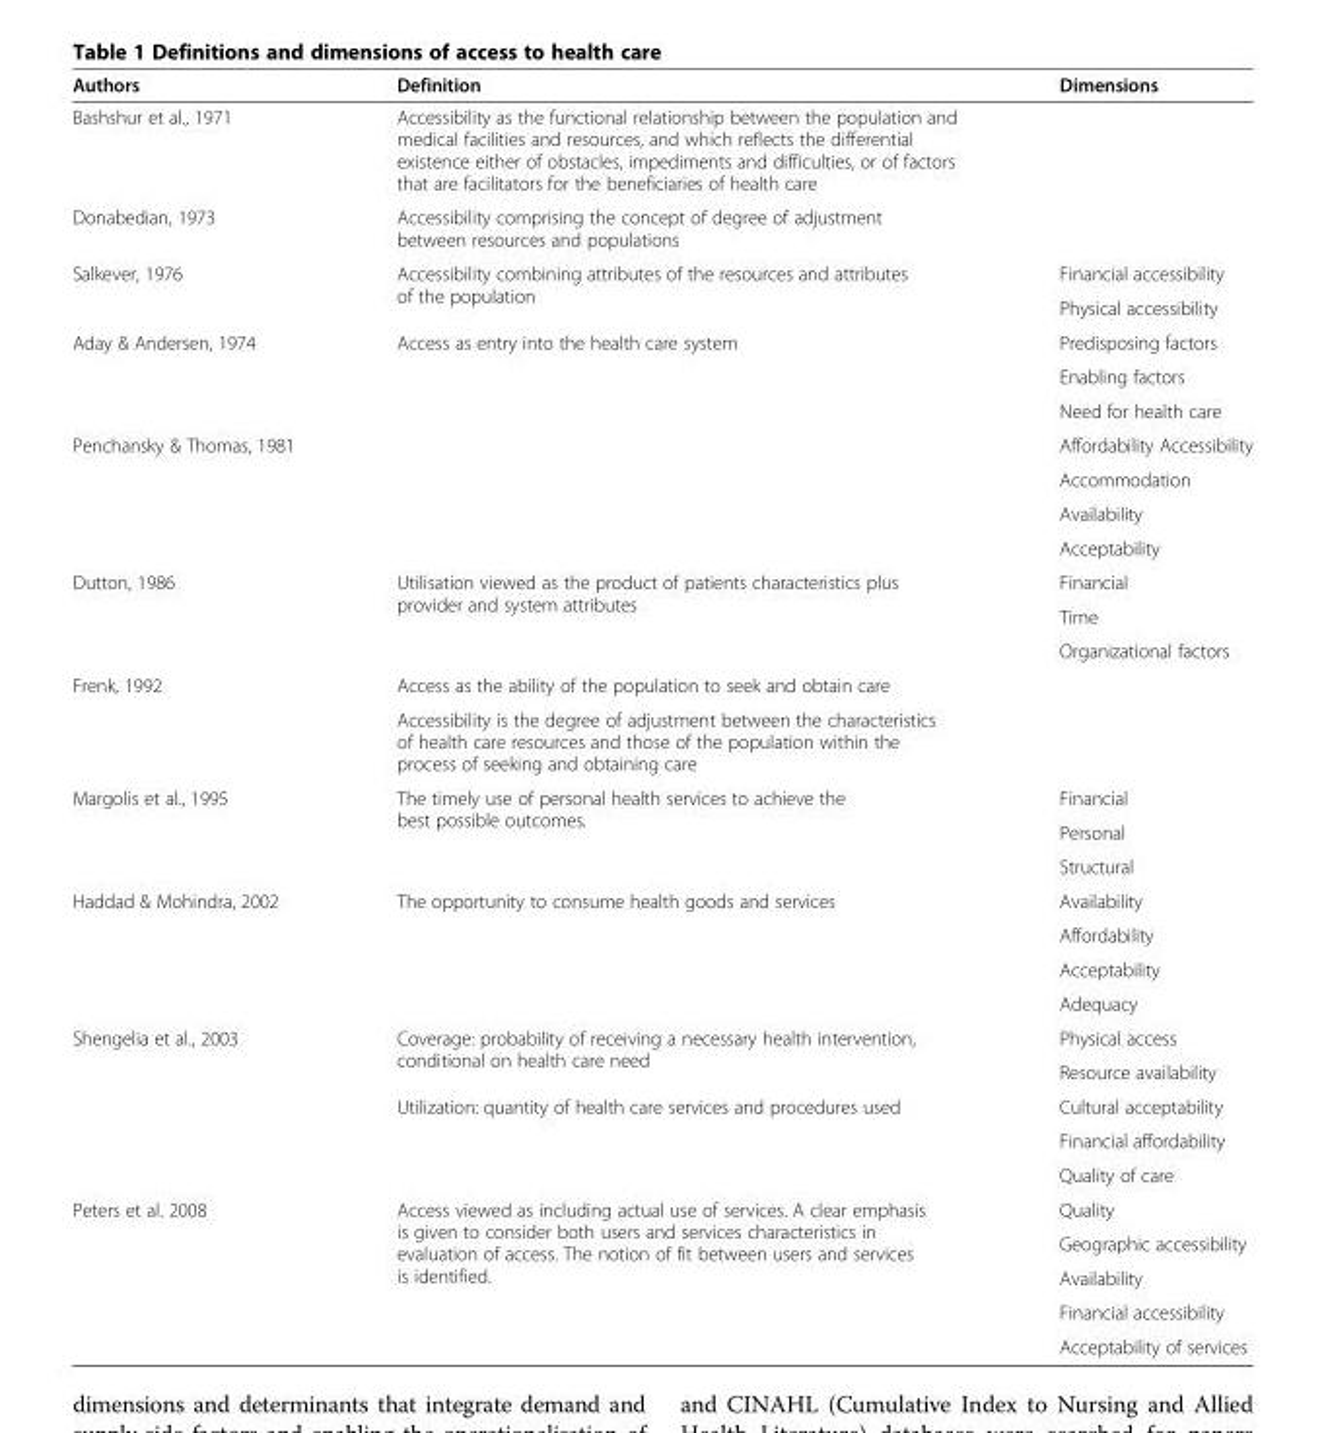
<table><thead><tr><td>Authors</td><td>Definition</td><td>Dimensions</td></tr></thead><tbody><tr><td>Bashshur et al., 1971</td><td>Accessibility as the functional relationship between the population and medical facilities and resources, and which reflects the differential existence either of obstacles, impediments and difficulties, or of factors that are facilitators for the beneficiaries of health care</td><td></td></tr><tr><td>Donabedian, 1973</td><td>Accessibility comprising the concept of degree of adjustment between resources and populations</td><td></td></tr><tr><td rowspan="2">Salkever, 1976</td><td rowspan="2">Accessibility combining attributes of the resources and attributes of the population</td><td>Financial accessibility</td></tr><tr><td>Physical accessibility</td></tr><tr><td rowspan="3">Aday &amp; Andersen, 1974</td><td rowspan="3">Access as entry into the health care system</td><td>Predisposing factors</td></tr><tr><td>Enabling factors</td></tr><tr><td>Need for health care</td></tr><tr><td rowspan="4">Penchansky &amp; Thomas, 1981</td><td rowspan="4"></td><td>Affordability Accessibility</td></tr><tr><td>Accommodation</td></tr><tr><td>Availability</td></tr><tr><td>Acceptability</td></tr><tr><td rowspan="3">Dutton, 1986</td><td rowspan="3">Utilisation viewed as the product of patients characteristics plus provider and system attributes</td><td>Financial</td></tr><tr><td>Time</td></tr><tr><td>Organizational factors</td></tr><tr><td rowspan="2">Frenk, 1992</td><td>Access as the ability of the population to seek and obtain care</td><td rowspan="2"></td></tr><tr><td>Accessibility is the degree of adjustment between the characteristics of health care resources and those of the population within the process of seeking and obtaining care</td></tr><tr><td rowspan="3">Margolis et al., 1995</td><td rowspan="3">The timely use of personal health services to achieve the best possible outcomes.</td><td>Financial</td></tr><tr><td>Personal</td></tr><tr><td>Structural</td></tr><tr><td rowspan="4">Haddad &amp; Mohindra, 2002</td><td rowspan="4">The opportunity to consume health goods and services</td><td>Availability</td></tr><tr><td>Affordability</td></tr><tr><td>Acceptability</td></tr><tr><td>Adequacy</td></tr><tr><td rowspan="5">Shengelia et al., 2003</td><td rowspan="2">Coverage: probability of receiving a necessary health intervention, conditional on health care need</td><td>Physical access</td></tr><tr><td>Resource availability</td></tr><tr><td rowspan="3">Utilization: quantity of health care services and procedures used</td><td>Cultural acceptability</td></tr><tr><td>Financial affordability</td></tr><tr><td>Quality of care</td></tr><tr><td rowspan="5">Peters et al. 2008</td><td rowspan="4">Access viewed as including actual use of services. A clear emphasis is given to consider both users and services characteristics in evaluation of access. The notion of fit between users and services is identified.</td><td>Quality</td></tr><tr><td>Geographic accessibility</td></tr><tr><td>Availability</td></tr><tr><td>Financial accessibility</td></tr><tr><td></td><td>Acceptability of services</td></tr></tbody></table>